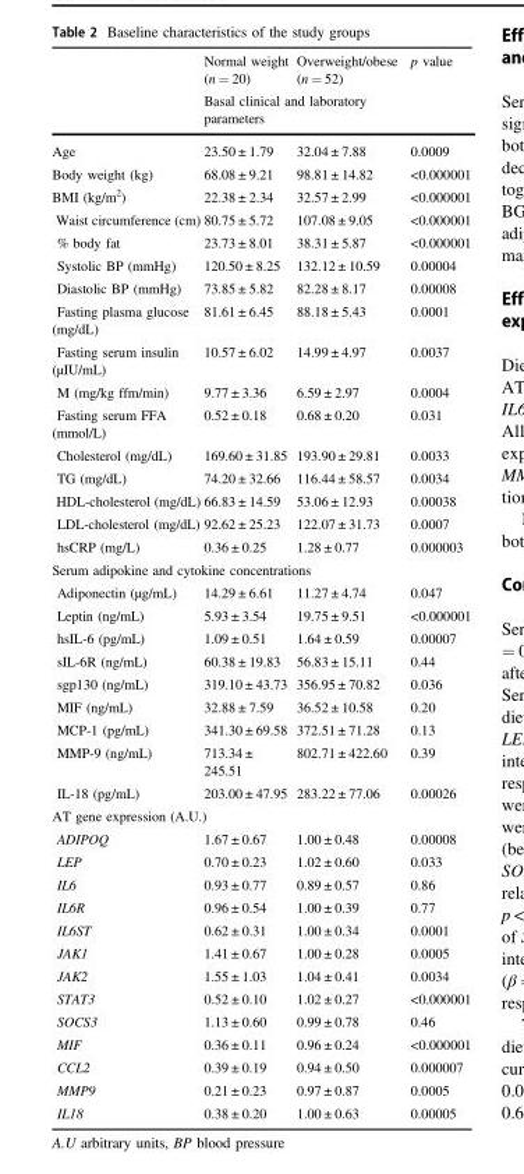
<table><thead><tr><td rowspan="2"></td><td>Normal weight (n = 20)</td><td>Overweight/obese (n = 52)</td><td rowspan="2">p value</td></tr><tr><td colspan="2">Basal clinical and laboratory parameters</td></tr></thead><tbody><tr><td>Age</td><td>23.50 ± 1.79</td><td>32.04 ± 7.88</td><td>0.0009</td></tr><tr><td>Body weight (kg)</td><td>68.08 ± 9.21</td><td>98.81 ± 14.82</td><td>&lt;0.000001</td></tr><tr><td>BMI (kg/m<sup>2</sup>)</td><td>22.38 ± 2.34</td><td>32.57 ± 2.99</td><td>&lt;0.000001</td></tr><tr><td>Waist circumference (cm)</td><td>80.75 ± 5.72</td><td>107.08 ± 9.05</td><td>&lt;0.000001</td></tr><tr><td>% body fat</td><td>23.73 ± 8.01</td><td>38.31 ± 5.87</td><td>&lt;0.000001</td></tr><tr><td>Systolic BP (mmHg)</td><td>120.50 ± 8.25</td><td>132.12 ± 10.59</td><td>0.00004</td></tr><tr><td>Diastolic BP (mmHg)</td><td>73.85 ± 5.82</td><td>82.28 ± 8.17</td><td>0.00008</td></tr><tr><td>Fasting plasma glucose (mg/dL)</td><td>81.61 ± 6.45</td><td>88.18 ± 5.43</td><td>0.0001</td></tr><tr><td>Fasting serum insulin (μIU/mL)</td><td>10.57 ± 6.02</td><td>14.99 ± 4.97</td><td>0.0037</td></tr><tr><td>M (mg/kg ffm/min)</td><td>9.77 ± 3.36</td><td>6.59 ± 2.97</td><td>0.0004</td></tr><tr><td>Fasting serum FFA (mmol/L)</td><td>0.52 ± 0.18</td><td>0.68 ± 0.20</td><td>0.031</td></tr><tr><td>Cholesterol (mg/dL)</td><td>169.60 ± 31.85</td><td>193.90 ± 29.81</td><td>0.0033</td></tr><tr><td>TG (mg/dL)</td><td>74.20 ± 32.66</td><td>116.44 ± 58.57</td><td>0.0034</td></tr><tr><td>HDL-cholesterol (mg/dL)</td><td>66.83 ± 14.59</td><td>53.06 ± 12.93</td><td>0.00038</td></tr><tr><td>LDL-cholesterol (mg/dL)</td><td>92.62 ± 25.23</td><td>122.07 ± 31.73</td><td>0.0007</td></tr><tr><td>hsCRP (mg/L)</td><td>0.36 ± 0.25</td><td>1.28 ± 0.77</td><td>0.000003</td></tr><tr><td colspan="4">Serum adipokine and cytokine concentrations</td></tr><tr><td>Adiponectin (μg/mL)</td><td>14.29 ± 6.61</td><td>11.27 ± 4.74</td><td>0.047</td></tr><tr><td>Leptin (ng/mL)</td><td>5.93 ± 3.54</td><td>19.75 ± 9.51</td><td>&lt;0.000001</td></tr><tr><td>hsIL-6 (pg/mL)</td><td>1.09 ± 0.51</td><td>1.64 ± 0.59</td><td>0.00007</td></tr><tr><td>sIL-6R (ng/mL)</td><td>60.38 ± 19.83</td><td>56.83 ± 15.11</td><td>0.44</td></tr><tr><td>sgp130 (ng/mL)</td><td>319.10 ± 43.73</td><td>356.95 ± 70.82</td><td>0.036</td></tr><tr><td>MIF (ng/mL)</td><td>32.88 ± 7.59</td><td>36.52 ± 10.58</td><td>0.20</td></tr><tr><td>MCP-1 (pg/mL)</td><td>341.30 ± 69.58</td><td>372.51 ± 71.28</td><td>0.13</td></tr><tr><td>MMP-9 (ng/mL)</td><td>713.34 ± 245.51</td><td>802.71 ± 422.60</td><td>0.39</td></tr><tr><td>IL-18 (pg/mL)</td><td>203.00 ± 47.95</td><td>283.22 ± 77.06</td><td>0.00026</td></tr><tr><td colspan="4">AT gene expression (A.U.)</td></tr><tr><td>ADIPOQ</td><td>1.67 ± 0.67</td><td>1.00 ± 0.48</td><td>0.00008</td></tr><tr><td>LEP</td><td>0.70 ± 0.23</td><td>1.02 ± 0.60</td><td>0.033</td></tr><tr><td>IL6</td><td>0.93 ± 0.77</td><td>0.89 ± 0.57</td><td>0.86</td></tr><tr><td>IL6R</td><td>0.96 ± 0.54</td><td>1.00 ± 0.39</td><td>0.77</td></tr><tr><td>IL6ST</td><td>0.62 ± 0.31</td><td>1.00 ± 0.34</td><td>0.0001</td></tr><tr><td>JAK1</td><td>1.41 ± 0.67</td><td>1.00 ± 0.28</td><td>0.0005</td></tr><tr><td>JAK2</td><td>1.55 ± 1.03</td><td>1.04 ± 0.41</td><td>0.0034</td></tr><tr><td>STAT3</td><td>0.52 ± 0.10</td><td>1.02 ± 0.27</td><td>&lt;0.000001</td></tr><tr><td>SOCS3</td><td>1.13 ± 0.60</td><td>0.99 ± 0.78</td><td>0.46</td></tr><tr><td>MIF</td><td>0.36 ± 0.11</td><td>0.96 ± 0.24</td><td>&lt;0.000001</td></tr><tr><td>CCL2</td><td>0.39 ± 0.19</td><td>0.94 ± 0.50</td><td>0.000007</td></tr><tr><td>MMP9</td><td>0.21 ± 0.23</td><td>0.97 ± 0.87</td><td>0.0005</td></tr><tr><td>IL18</td><td>0.38 ± 0.20</td><td>1.00 ± 0.63</td><td>0.00005</td></tr></tbody></table>